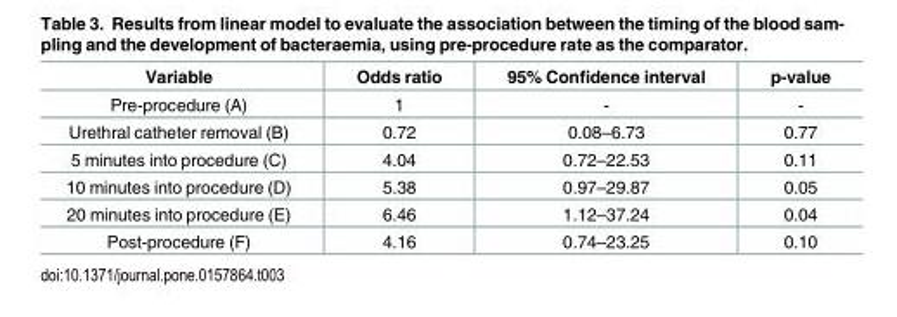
<table><thead><tr><td>Variable</td><td>Odds ratio</td><td>95% Confidence interval</td><td>p-value</td></tr></thead><tbody><tr><td>Pre-procedure (A)</td><td>1</td><td>-</td><td>-</td></tr><tr><td>Urethral catheter removal (B)</td><td>0.72</td><td>0.08–6.73</td><td>0.77</td></tr><tr><td>5 minutes into procedure (C)</td><td>4.04</td><td>0.72–22.53</td><td>0.11</td></tr><tr><td>10 minutes into procedure (D)</td><td>5.38</td><td>0.97–29.87</td><td>0.05</td></tr><tr><td>20 minutes into procedure (E)</td><td>6.46</td><td>1.12–37.24</td><td>0.04</td></tr><tr><td>Post-procedure (F)</td><td>4.16</td><td>0.74–23.25</td><td>0.10</td></tr></tbody></table>